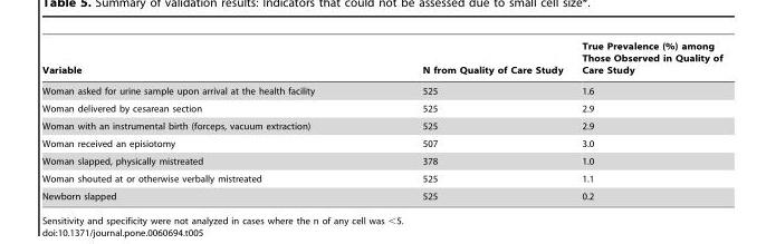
<table><thead><tr><td>Variable</td><td>N from Quality of Care Study</td><td>True Prevalence (%) among Those Observed in Quality of Care Study</td></tr></thead><tbody><tr><td>Woman asked for urine sample upon arrival at the health facility</td><td>525</td><td>1.6</td></tr><tr><td>Woman delivered by cesarean section</td><td>525</td><td>2.9</td></tr><tr><td>Woman with an instrumental birth (forceps, vacuum extraction)</td><td>525</td><td>2.9</td></tr><tr><td>Woman received an episiotomy</td><td>507</td><td>3.0</td></tr><tr><td>Woman slapped, physically mistreated</td><td>378</td><td>1.0</td></tr><tr><td>Woman shouted at or otherwise verbally mistreated</td><td>525</td><td>1.1</td></tr><tr><td>Newborn slapped</td><td>525</td><td>0.2</td></tr></tbody></table>